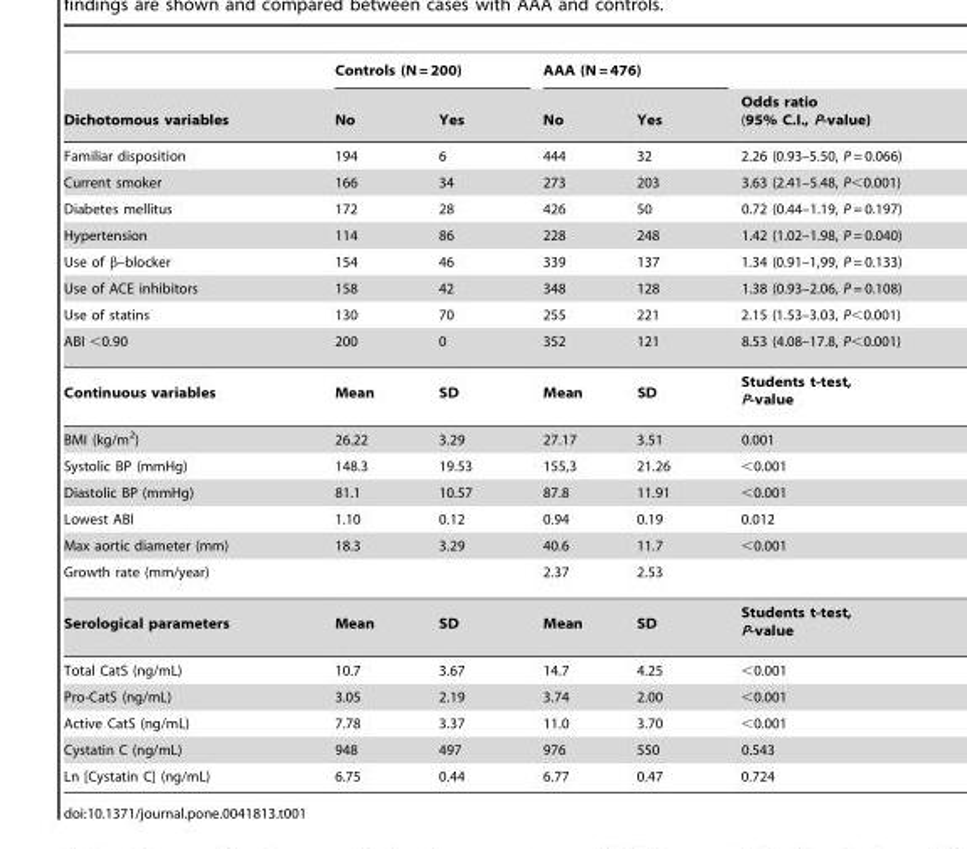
<table><thead><tr><td rowspan="2">Dichotomous variables</td><td colspan="2">Controls (N = 200)</td><td colspan="2">AAA (N = 476)</td><td rowspan="2">Odds ratio (95% C.I., P-value)</td></tr><tr><td>No</td><td>Yes</td><td>No</td><td>Yes</td></tr></thead><tbody><tr><td>Familiar disposition</td><td>194</td><td>6</td><td>444</td><td>32</td><td>2.26 (0.93–5.50, P = 0.066)</td></tr><tr><td>Current smoker</td><td>166</td><td>34</td><td>273</td><td>203</td><td>3.63 (2.41–5.48, P&lt;0.001)</td></tr><tr><td>Diabetes mellitus</td><td>172</td><td>28</td><td>426</td><td>50</td><td>0.72 (0.44–1.19, P = 0.197)</td></tr><tr><td>Hypertension</td><td>114</td><td>86</td><td>228</td><td>248</td><td>1.42 (1.02–1.98, P = 0.040)</td></tr><tr><td>Use of β–blocker</td><td>154</td><td>46</td><td>339</td><td>137</td><td>1.34 (0.91–1,99, P = 0.133)</td></tr><tr><td>Use of ACE inhibitors</td><td>158</td><td>42</td><td>348</td><td>128</td><td>1.38 (0.93–2.06, P = 0.108)</td></tr><tr><td>Use of statins</td><td>130</td><td>70</td><td>255</td><td>221</td><td>2.15 (1.53–3.03, P&lt;0.001)</td></tr><tr><td>ABI &lt;0.90</td><td>200</td><td>0</td><td>352</td><td>121</td><td>8.53 (4.08–17.8, P&lt;0.001)</td></tr><tr><td>Continuous variables</td><td>Mean</td><td>SD</td><td>Mean</td><td>SD</td><td>Students t-test, P-value</td></tr><tr><td>BMI (kg/m<sup>2</sup>)</td><td>26.22</td><td>3.29</td><td>27.17</td><td>3.51</td><td>0.001</td></tr><tr><td>Systolic BP (mmHg)</td><td>148.3</td><td>19.53</td><td>155,3</td><td>21.26</td><td>&lt;0.001</td></tr><tr><td>Diastolic BP (mmHg)</td><td>81.1</td><td>10.57</td><td>87.8</td><td>11.91</td><td>&lt;0.001</td></tr><tr><td>Lowest ABI</td><td>1.10</td><td>0.12</td><td>0.94</td><td>0.19</td><td>0.012</td></tr><tr><td>Max aortic diameter (mm)</td><td>18.3</td><td>3.29</td><td>40.6</td><td>11.7</td><td>&lt;0.001</td></tr><tr><td>Growth rate (mm/year)</td><td></td><td></td><td>2.37</td><td>2.53</td><td></td></tr><tr><td>Serological parameters</td><td>Mean</td><td>SD</td><td>Mean</td><td>SD</td><td>Students t-test, P-value</td></tr><tr><td>Total CatS (ng/mL)</td><td>10.7</td><td>3.67</td><td>14.7</td><td>4.25</td><td>&lt;0.001</td></tr><tr><td>Pro-CatS (ng/mL)</td><td>3.05</td><td>2.19</td><td>3.74</td><td>2.00</td><td>&lt;0.001</td></tr><tr><td>Active CatS (ng/mL)</td><td>7.78</td><td>3.37</td><td>11.0</td><td>3.70</td><td>&lt;0.001</td></tr><tr><td>Cystatin C (ng/mL)</td><td>948</td><td>497</td><td>976</td><td>550</td><td>0.543</td></tr><tr><td>Ln [Cystatin C] (ng/mL)</td><td>6.75</td><td>0.44</td><td>6.77</td><td>0.47</td><td>0.724</td></tr></tbody></table>